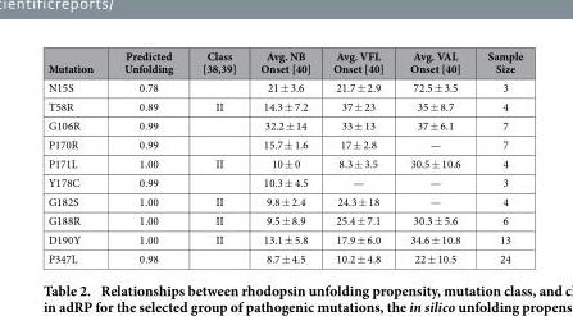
<table><thead><tr><td>Mutation</td><td>Predicted Unfolding</td><td>Class [38,39]</td><td>Avg. NB Onset [40]</td><td>Avg. VFL Onset [40]</td><td>Avg. VAL Onset [40]</td><td>Sample Size</td></tr></thead><tbody><tr><td>N15S</td><td>0.78</td><td></td><td>21 ± 3.6</td><td>21.7 ± 2.9</td><td>72.5 ± 3.5</td><td>3</td></tr><tr><td>T58R</td><td>0.89</td><td>II</td><td>14.3 ± 7.2</td><td>37 ± 23</td><td>35 ± 8.7</td><td>4</td></tr><tr><td>G106R</td><td>0.99</td><td></td><td>32.2 ± 14</td><td>33 ± 13</td><td>37 ± 6.1</td><td>7</td></tr><tr><td>P170R</td><td>0.99</td><td></td><td>15.7 ± 1.6</td><td>17 ± 2.8</td><td>—</td><td>7</td></tr><tr><td>P171L</td><td>1.00</td><td>II</td><td>10 ± 0</td><td>8.3 ± 3.5</td><td>30.5 ± 10.6</td><td>4</td></tr><tr><td>Y178C</td><td>0.99</td><td></td><td>10.3 ± 4.5</td><td>—</td><td>—</td><td>3</td></tr><tr><td>G182S</td><td>1.00</td><td>II</td><td>9.8 ± 2.4</td><td>24.3 ± 18</td><td>—</td><td>4</td></tr><tr><td>G188R</td><td>1.00</td><td>II</td><td>9.5 ± 8.9</td><td>25.4 ± 7.1</td><td>30.3 ± 5.6</td><td>6</td></tr><tr><td>D190Y</td><td>1.00</td><td>II</td><td>13.1 ± 5.8</td><td>17.9 ± 6.0</td><td>34.6 ± 10.8</td><td>13</td></tr><tr><td>P347L</td><td>0.98</td><td></td><td>8.7 ± 4.5</td><td>10.2 ± 4.8</td><td>22 ± 10.5</td><td>24</td></tr></tbody></table>